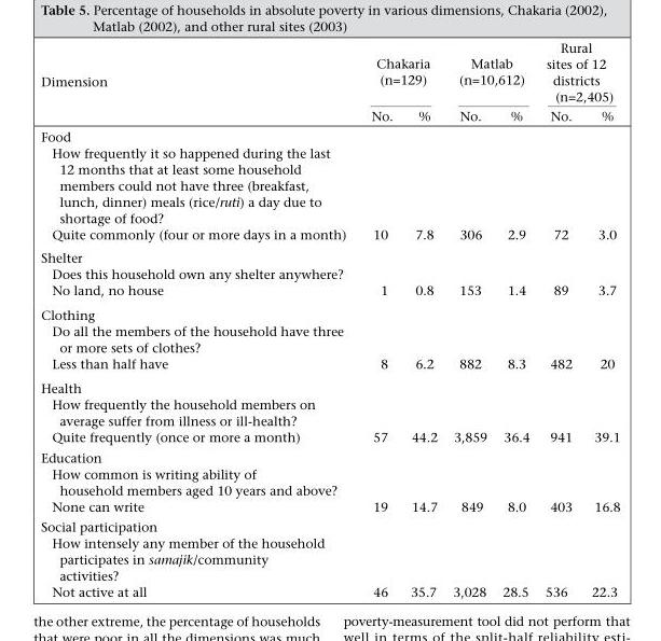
<table><thead><tr><td rowspan="2">Dimension</td><td colspan="2">Chakaria (n=129)</td><td colspan="2">Matlab (n=10,612)</td><td colspan="2">Rural sites of 12 districts (n=2,405)</td></tr><tr><td>No.</td><td>%</td><td>No.</td><td>%</td><td>No.</td><td>%</td></tr></thead><tbody><tr><td colspan="7">Food</td></tr><tr><td colspan="7">How frequently it so happened during the last 12 months that at least some household members could not have three (breakfast, lunch, dinner) meals (rice/ruti) a day due to shortage of food?</td></tr><tr><td>Quite commonly (four or more days in a month)</td><td>10</td><td>7.8</td><td>306</td><td>2.9</td><td>72</td><td>3.0</td></tr><tr><td colspan="7">Shelter</td></tr><tr><td colspan="7">Does this household own any shelter anywhere?</td></tr><tr><td>No land, no house</td><td>1</td><td>0.8</td><td>153</td><td>1.4</td><td>89</td><td>3.7</td></tr><tr><td colspan="7">Clothing</td></tr><tr><td colspan="7">Do all the members of the household have three or more sets of clothes?</td></tr><tr><td>Less than half have</td><td>8</td><td>6.2</td><td>882</td><td>8.3</td><td>482</td><td>20</td></tr><tr><td colspan="7">Health</td></tr><tr><td colspan="7">How frequently the household members on average suffer from illness or ill-health?</td></tr><tr><td>Quite frequently (once or more a month)</td><td>57</td><td>44.2</td><td>3,859</td><td>36.4</td><td>941</td><td>39.1</td></tr><tr><td colspan="7">Education</td></tr><tr><td colspan="7">How common is writing ability of household members aged 10 years and above?</td></tr><tr><td>None can write</td><td>19</td><td>14.7</td><td>849</td><td>8.0</td><td>403</td><td>16.8</td></tr><tr><td colspan="7">Social participation</td></tr><tr><td colspan="7">How intensely any member of the household participates in samajik/community activities?</td></tr><tr><td>Not active at all</td><td>46</td><td>35.7</td><td>3,028</td><td>28.5</td><td>536</td><td>22.3</td></tr></tbody></table>